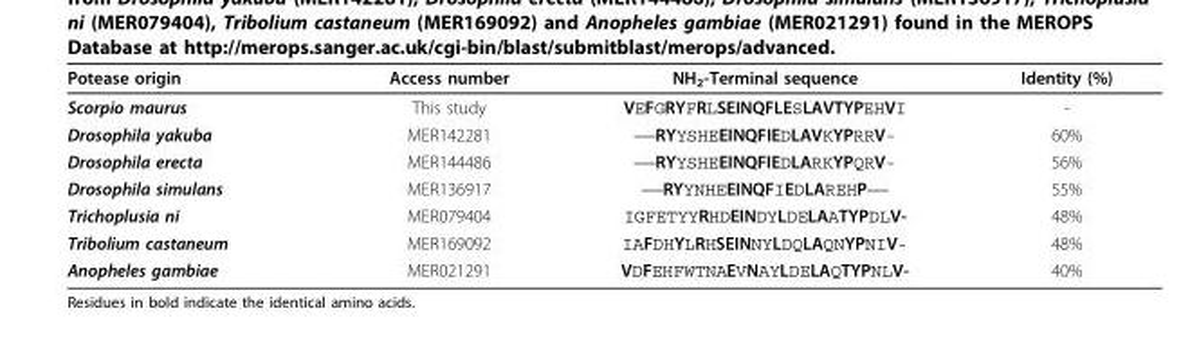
<table><thead><tr><td>Potease origin</td><td>Access number</td><td>NH<sub>2</sub>-Terminal sequence</td><td>Identity (%)</td></tr></thead><tbody><tr><td>Scorpio maurus</td><td>This study</td><td>VEFGRYFRLSEINQFLESLAVTYPEHVI</td><td>-</td></tr><tr><td>Drosophila yakuba</td><td>MER142281</td><td>——RYYSHEEINQFIEDLAVKYPRRV-</td><td>60%</td></tr><tr><td>Drosophila erecta</td><td>MER144486</td><td>——RYYSHEEINQFIEDLARKYPQRV-</td><td>56%</td></tr><tr><td>Drosophila simulans</td><td>MER136917</td><td>——RYYNHEEINQFIEDLAREHP——</td><td>55%</td></tr><tr><td>Trichoplusia ni</td><td>MER079404</td><td>IGFETYYRHDEINDYLDELAATYPDLV-</td><td>48%</td></tr><tr><td>Tribolium castaneum</td><td>MER169092</td><td>IAFDHYLRHSEINNYLDQLAQNYPNIV-</td><td>48%</td></tr><tr><td>Anopheles gambiae</td><td>MER021291</td><td>VDFEHFWTNAEVNAYLDELAQTYPNLV-</td><td>40%</td></tr></tbody></table>